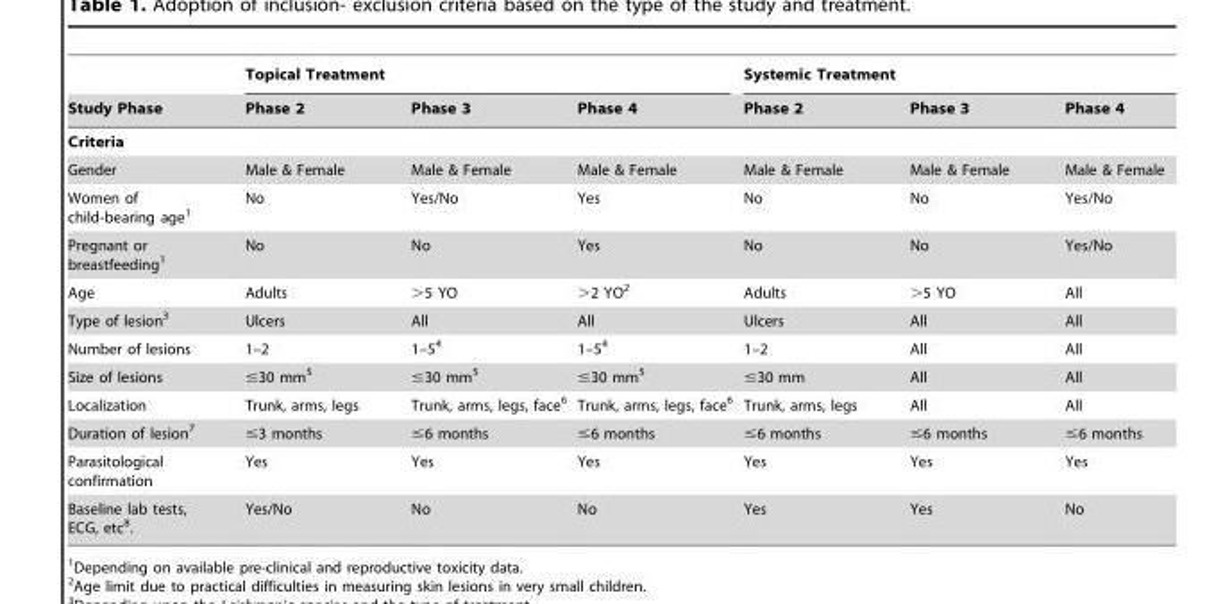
<table><thead><tr><td rowspan="2">Study Phase</td><td colspan="3">Topical Treatment</td><td colspan="3">Systemic Treatment</td></tr><tr><td>Phase 2</td><td>Phase 3</td><td>Phase 4</td><td>Phase 2</td><td>Phase 3</td><td>Phase 4</td></tr></thead><tbody><tr><td colspan="7">Criteria</td></tr><tr><td>Gender</td><td>Male &amp; Female</td><td>Male &amp; Female</td><td>Male &amp; Female</td><td>Male &amp; Female</td><td>Male &amp; Female</td><td>Male &amp; Female</td></tr><tr><td>Women of child-bearing age<sup>1</sup></td><td>No</td><td>Yes/No</td><td>Yes</td><td>No</td><td>No</td><td>Yes/No</td></tr><tr><td>Pregnant or breastfeeding<sup>1</sup></td><td>No</td><td>No</td><td>Yes</td><td>No</td><td>No</td><td>Yes/No</td></tr><tr><td>Age</td><td>Adults</td><td>&gt;5 YO</td><td>&gt;2 YO<sup>2</sup></td><td>Adults</td><td>&gt;5 YO</td><td>All</td></tr><tr><td>Type of lesion<sup>3</sup></td><td>Ulcers</td><td>All</td><td>All</td><td>Ulcers</td><td>All</td><td>All</td></tr><tr><td>Number of lesions</td><td>1–2</td><td>1–5<sup>4</sup></td><td>1–5<sup>4</sup></td><td>1–2</td><td>All</td><td>All</td></tr><tr><td>Size of lesions</td><td>≤30 mm<sup>5</sup></td><td>≤30 mm<sup>5</sup></td><td>≤30 mm<sup>5</sup></td><td>≤30 mm</td><td>All</td><td>All</td></tr><tr><td>Localization</td><td>Trunk, arms, legs</td><td>Trunk, arms, legs, face<sup>6</sup></td><td>Trunk, arms, legs, face<sup>6</sup></td><td>Trunk, arms, legs</td><td>All</td><td>All</td></tr><tr><td>Duration of lesion<sup>7</sup></td><td>≤3 months</td><td>≤6 months</td><td>≤6 months</td><td>≤6 months</td><td>≤6 months</td><td>≤6 months</td></tr><tr><td>Parasitological confirmation</td><td>Yes</td><td>Yes</td><td>Yes</td><td>Yes</td><td>Yes</td><td>Yes</td></tr><tr><td>Baseline lab tests, ECG, etc<sup>8</sup>.</td><td>Yes/No</td><td>No</td><td>No</td><td>Yes</td><td>Yes</td><td>No</td></tr></tbody></table>